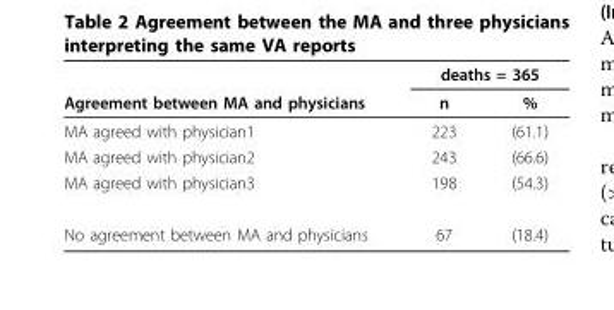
<table><thead><tr><td rowspan="2">Agreement between MA and physicians</td><td colspan="2">deaths = 365</td></tr><tr><td>n</td><td>%</td></tr></thead><tbody><tr><td>MA agreed with physician1</td><td>223</td><td>(61.1)</td></tr><tr><td>MA agreed with physician2</td><td>243</td><td>(66.6)</td></tr><tr><td>MA agreed with physician3</td><td>198</td><td>(54.3)</td></tr><tr><td>No agreement between MA and physicians</td><td>67</td><td>(18.4)</td></tr></tbody></table>